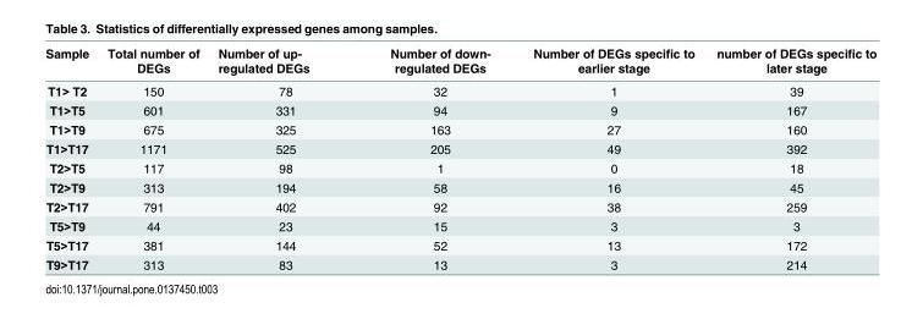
<table><thead><tr><td>Sample</td><td>Total number of DEGs</td><td>Number of up- regulated DEGs</td><td>Number of down- regulated DEGs</td><td>Number of DEGs specific to earlier stage</td><td>number of DEGs specific to later stage</td></tr></thead><tbody><tr><td>T1&gt; T2</td><td>150</td><td>78</td><td>32</td><td>1</td><td>39</td></tr><tr><td>T1&gt;T5</td><td>601</td><td>331</td><td>94</td><td>9</td><td>167</td></tr><tr><td>T1&gt;T9</td><td>675</td><td>325</td><td>163</td><td>27</td><td>160</td></tr><tr><td>T1&gt;T17</td><td>1171</td><td>525</td><td>205</td><td>49</td><td>392</td></tr><tr><td>T2&gt;T5</td><td>117</td><td>98</td><td>1</td><td>0</td><td>18</td></tr><tr><td>T2&gt;T9</td><td>313</td><td>194</td><td>58</td><td>16</td><td>45</td></tr><tr><td>T2&gt;T17</td><td>791</td><td>402</td><td>92</td><td>38</td><td>259</td></tr><tr><td>T5&gt;T9</td><td>44</td><td>23</td><td>15</td><td>3</td><td>3</td></tr><tr><td>T5&gt;T17</td><td>381</td><td>144</td><td>52</td><td>13</td><td>172</td></tr><tr><td>T9&gt;T17</td><td>313</td><td>83</td><td>13</td><td>3</td><td>214</td></tr></tbody></table>